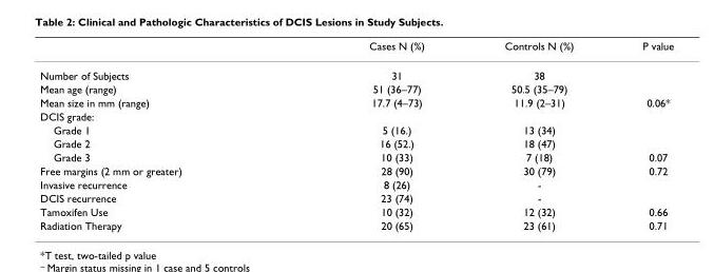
<table><thead><tr><td></td><td>Cases N (%)</td><td>Controls N (%)</td><td>P value</td></tr></thead><tbody><tr><td>Number of Subjects</td><td>31</td><td>38</td><td></td></tr><tr><td>Mean age (range)</td><td>51 (36–77)</td><td>50.5 (35–79)</td><td></td></tr><tr><td>Mean size in mm (range)</td><td>17.7 (4–73)</td><td>11.9 (2–31)</td><td>0.06*</td></tr><tr><td colspan="4">DCIS grade:</td></tr><tr><td>Grade 1</td><td>5 (16.)</td><td>13 (34)</td><td></td></tr><tr><td>Grade 2</td><td>16 (52.)</td><td>18 (47)</td><td></td></tr><tr><td>Grade 3</td><td>10 (33)</td><td>7 (18)</td><td>0.07</td></tr><tr><td>Free margins (2 mm or greater)</td><td>28 (90)</td><td>30 (79)</td><td>0.72</td></tr><tr><td>Invasive recurrence</td><td>8 (26)</td><td>-</td><td></td></tr><tr><td>DCIS recurrence</td><td>23 (74)</td><td>-</td><td></td></tr><tr><td>Tamoxifen Use</td><td>10 (32)</td><td>12 (32)</td><td>0.66</td></tr><tr><td>Radiation Therapy</td><td>20 (65)</td><td>23 (61)</td><td>0.71</td></tr></tbody></table>